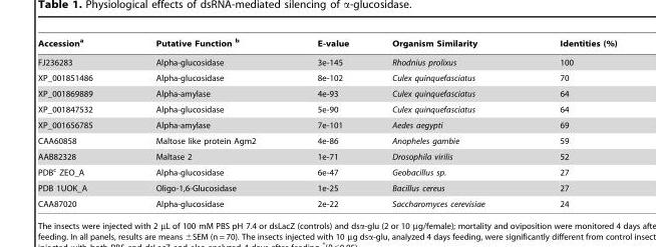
<table><thead><tr><td>Accession<sup>a</sup></td><td>Putative Function b</td><td>E-value</td><td>Organism Similarity</td><td>Identities (%)</td></tr></thead><tbody><tr><td>FJ236283</td><td>Alpha-glucosidase</td><td>3e-145</td><td>Rhodnius prolixus</td><td>100</td></tr><tr><td>XP_001851486</td><td>Alpha-glucosidase</td><td>8e-102</td><td>Culex quinquefasciatus</td><td>70</td></tr><tr><td>XP_001869889</td><td>Alpha-amylase</td><td>4e-93</td><td>Culex quinquefasciatus</td><td>64</td></tr><tr><td>XP_001847532</td><td>Alpha-glucosidase</td><td>5e-90</td><td>Culex quinquefasciatus</td><td>64</td></tr><tr><td>XP_001656785</td><td>Alpha-amylase</td><td>7e-101</td><td>Aedes aegypti</td><td>69</td></tr><tr><td>CAA60858</td><td>Maltose like protein Agm2</td><td>4e-86</td><td>Anopheles gambie</td><td>59</td></tr><tr><td>AAB82328</td><td>Maltase 2</td><td>1e-71</td><td>Drosophila virilis</td><td>52</td></tr><tr><td>PDB<sup>c</sup> ZEO_A</td><td>Alpha-glucosidase</td><td>6e-47</td><td>Geobacillus sp.</td><td>27</td></tr><tr><td>PDB 1UOK_A</td><td>Oligo-1,6-Glucosidase</td><td>1e-25</td><td>Bacillus cereus</td><td>27</td></tr><tr><td>CAA87020</td><td>Alpha-glucosidase</td><td>2e-22</td><td>Saccharomyces cerevisiae</td><td>24</td></tr></tbody></table>